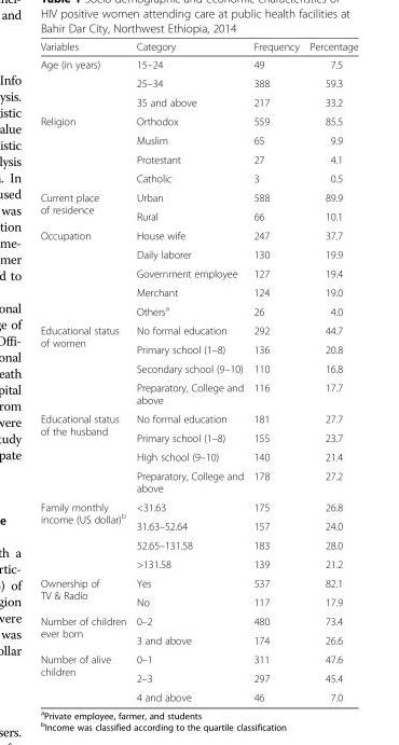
<table><thead><tr><td>Variables</td><td>Category</td><td>Frequency</td><td>Percentage</td></tr></thead><tbody><tr><td rowspan="3">Age (in years)</td><td>15–24</td><td>49</td><td>7.5</td></tr><tr><td>25–34</td><td>388</td><td>59.3</td></tr><tr><td>35 and above</td><td>217</td><td>33.2</td></tr><tr><td rowspan="4">Religion</td><td>Orthodox</td><td>559</td><td>85.5</td></tr><tr><td>Muslim</td><td>65</td><td>9.9</td></tr><tr><td>Protestant</td><td>27</td><td>4.1</td></tr><tr><td>Catholic</td><td>3</td><td>0.5</td></tr><tr><td rowspan="2">Current place of residence</td><td>Urban</td><td>588</td><td>89.9</td></tr><tr><td>Rural</td><td>66</td><td>10.1</td></tr><tr><td rowspan="5">Occupation</td><td>House wife</td><td>247</td><td>37.7</td></tr><tr><td>Daily laborer</td><td>130</td><td>19.9</td></tr><tr><td>Government employee</td><td>127</td><td>19.4</td></tr><tr><td>Merchant</td><td>124</td><td>19.0</td></tr><tr><td>Others<sup>a</sup></td><td>26</td><td>4.0</td></tr><tr><td rowspan="4">Educational status of women</td><td>No formal education</td><td>292</td><td>44.7</td></tr><tr><td>Primary school (1–8)</td><td>136</td><td>20.8</td></tr><tr><td>Secondary school (9–10)</td><td>110</td><td>16.8</td></tr><tr><td>Preparatory, College and above</td><td>116</td><td>17.7</td></tr><tr><td rowspan="4">Educational status of the husband</td><td>No formal education</td><td>181</td><td>27.7</td></tr><tr><td>Primary school (1–8)</td><td>155</td><td>23.7</td></tr><tr><td>High school (9–10)</td><td>140</td><td>21.4</td></tr><tr><td>Preparatory, College and above</td><td>178</td><td>27.2</td></tr><tr><td rowspan="4">Family monthly income (US dollar)<sup>b</sup></td><td>&lt;31.63</td><td>175</td><td>26.8</td></tr><tr><td>31.63–52.64</td><td>157</td><td>24.0</td></tr><tr><td>52.65–131.58</td><td>183</td><td>28.0</td></tr><tr><td>&gt;131.58</td><td>139</td><td>21.2</td></tr><tr><td rowspan="2">Ownership of TV &amp; Radio</td><td>Yes</td><td>537</td><td>82.1</td></tr><tr><td>No</td><td>117</td><td>17.9</td></tr><tr><td rowspan="2">Number of children ever born</td><td>0–2</td><td>480</td><td>73.4</td></tr><tr><td>3 and above</td><td>174</td><td>26.6</td></tr><tr><td rowspan="3">Number of alive children</td><td>0–1</td><td>311</td><td>47.6</td></tr><tr><td>2–3</td><td>297</td><td>45.4</td></tr><tr><td>4 and above</td><td>46</td><td>7.0</td></tr></tbody></table>